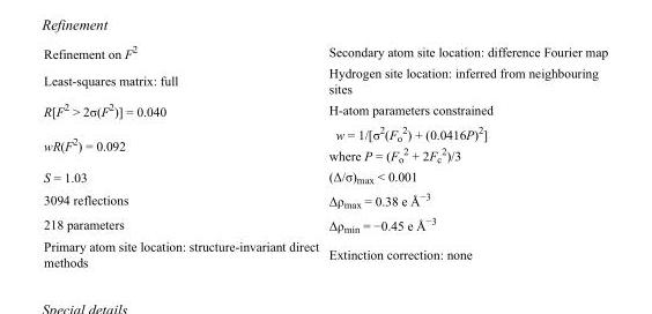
<table><tbody><tr><td>Refinement on F<sup>2</sup></td><td>Secondary atom site location: difference Fourier map</td></tr><tr><td>Least-squares matrix: full</td><td>Hydrogen site location: inferred from neighbouring sites</td></tr><tr><td>R[F<sup>2</sup> &gt; 2σ(F<sup>2</sup>)] = 0.040</td><td>H-atom parameters constrained</td></tr><tr><td>wR(F<sup>2</sup>) = 0.092</td><td>w = 1/[σ<sup>2</sup>(F<sub>o</sub> <sup>2</sup>) + (0.0416P)<sup>2</sup>] where P = (F<sub>o</sub> <sup>2</sup> + 2F<sub>c</sub> <sup>2</sup>)/3</td></tr><tr><td>S = 1.03</td><td>(Δ/σ)<sub>max</sub> &lt; 0.001</td></tr><tr><td>3094 reflections</td><td>Δρ<sub>max</sub> = 0.38 e Å<sup>−3</sup></td></tr><tr><td>218 parameters</td><td>Δρ<sub>min</sub> = −0.45 e Å<sup>−3</sup></td></tr><tr><td>Primary atom site location: structure-invariant direct methods</td><td>Extinction correction: none</td></tr></tbody></table>